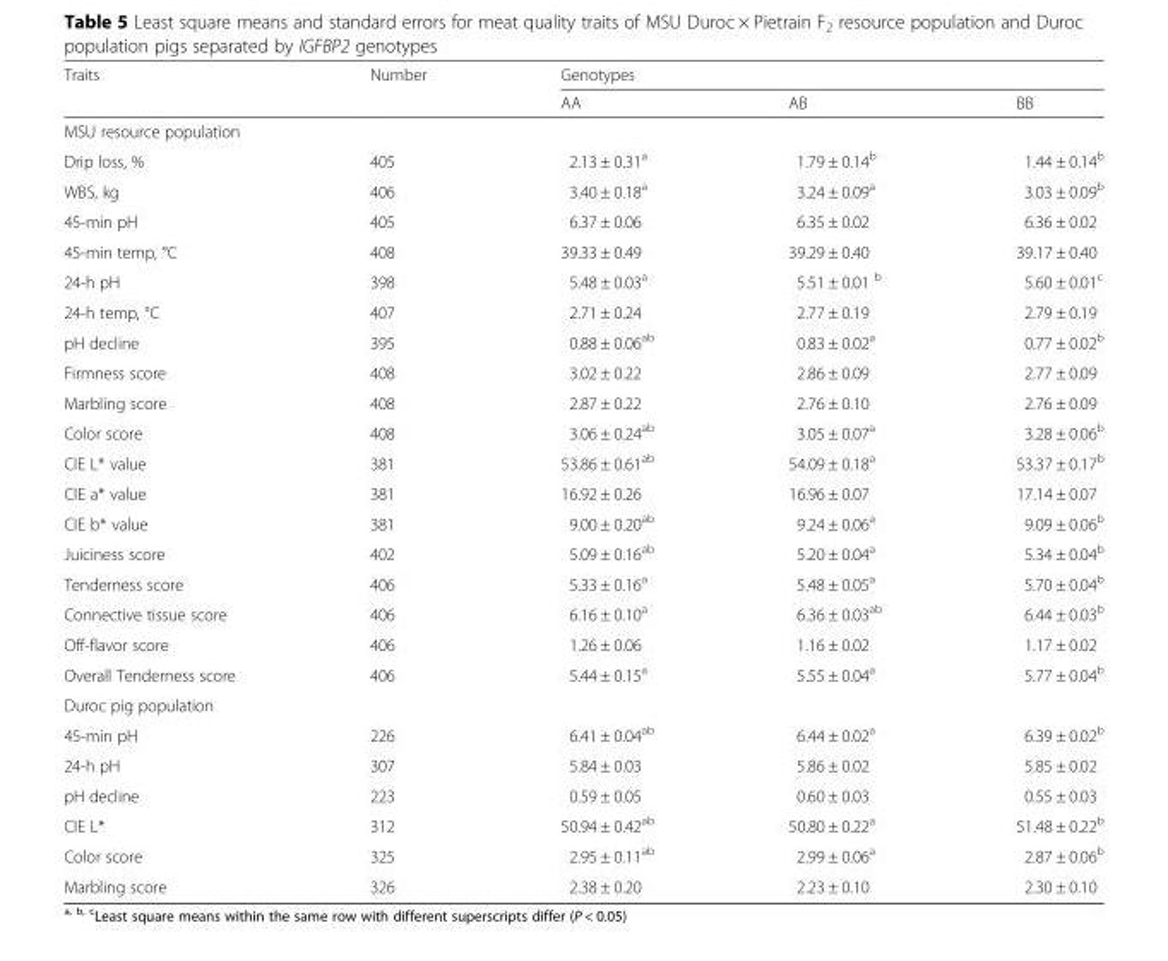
<table><thead><tr><td rowspan="2">Traits</td><td rowspan="2">Number</td><td colspan="3">Genotypes</td></tr><tr><td>AA</td><td>AB</td><td>BB</td></tr></thead><tbody><tr><td colspan="5">MSU resource population</td></tr><tr><td>Drip loss, %</td><td>405</td><td>2.13 ± 0.31<sup>a</sup></td><td>1.79 ± 0.14<sup>b</sup></td><td>1.44 ± 0.14<sup>b</sup></td></tr><tr><td>WBS, kg</td><td>406</td><td>3.40 ± 0.18<sup>a</sup></td><td>3.24 ± 0.09<sup>a</sup></td><td>3.03 ± 0.09<sup>b</sup></td></tr><tr><td>45-min pH</td><td>405</td><td>6.37 ± 0.06</td><td>6.35 ± 0.02</td><td>6.36 ± 0.02</td></tr><tr><td>45-min temp, °C</td><td>408</td><td>39.33 ± 0.49</td><td>39.29 ± 0.40</td><td>39.17 ± 0.40</td></tr><tr><td>24-h pH</td><td>398</td><td>5.48 ± 0.03<sup>a</sup></td><td>5.51 ± 0.01 <sup>b</sup></td><td>5.60 ± 0.01<sup>c</sup></td></tr><tr><td>24-h temp, °C</td><td>407</td><td>2.71 ± 0.24</td><td>2.77 ± 0.19</td><td>2.79 ± 0.19</td></tr><tr><td>pH decline</td><td>395</td><td>0.88 ± 0.06<sup>ab</sup></td><td>0.83 ± 0.02<sup>a</sup></td><td>0.77 ± 0.02<sup>b</sup></td></tr><tr><td>Firmness score</td><td>408</td><td>3.02 ± 0.22</td><td>2.86 ± 0.09</td><td>2.77 ± 0.09</td></tr><tr><td>Marbling score</td><td>408</td><td>2.87 ± 0.22</td><td>2.76 ± 0.10</td><td>2.76 ± 0.09</td></tr><tr><td>Color score</td><td>408</td><td>3.06 ± 0.24<sup>ab</sup></td><td>3.05 ± 0.07<sup>a</sup></td><td>3.28 ± 0.06<sup>b</sup></td></tr><tr><td>CIE L* value</td><td>381</td><td>53.86 ± 0.61<sup>ab</sup></td><td>54.09 ± 0.18<sup>a</sup></td><td>53.37 ± 0.17<sup>b</sup></td></tr><tr><td>CIE a* value</td><td>381</td><td>16.92 ± 0.26</td><td>16.96 ± 0.07</td><td>17.14 ± 0.07</td></tr><tr><td>CIE b* value</td><td>381</td><td>9.00 ± 0.20<sup>ab</sup></td><td>9.24 ± 0.06<sup>a</sup></td><td>9.09 ± 0.06<sup>b</sup></td></tr><tr><td>Juiciness score</td><td>402</td><td>5.09 ± 0.16<sup>ab</sup></td><td>5.20 ± 0.04<sup>a</sup></td><td>5.34 ± 0.04<sup>b</sup></td></tr><tr><td>Tenderness score</td><td>406</td><td>5.33 ± 0.16<sup>a</sup></td><td>5.48 ± 0.05<sup>a</sup></td><td>5.70 ± 0.04<sup>b</sup></td></tr><tr><td>Connective tissue score</td><td>406</td><td>6.16 ± 0.10<sup>a</sup></td><td>6.36 ± 0.03<sup>ab</sup></td><td>6.44 ± 0.03<sup>b</sup></td></tr><tr><td>Off-flavor score</td><td>406</td><td>1.26 ± 0.06</td><td>1.16 ± 0.02</td><td>1.17 ± 0.02</td></tr><tr><td>Overall Tenderness score</td><td>406</td><td>5.44 ± 0.15<sup>a</sup></td><td>5.55 ± 0.04<sup>a</sup></td><td>5.77 ± 0.04<sup>b</sup></td></tr><tr><td colspan="5">Duroc pig population</td></tr><tr><td>45-min pH</td><td>226</td><td>6.41 ± 0.04<sup>ab</sup></td><td>6.44 ± 0.02<sup>a</sup></td><td>6.39 ± 0.02<sup>b</sup></td></tr><tr><td>24-h pH</td><td>307</td><td>5.84 ± 0.03</td><td>5.86 ± 0.02</td><td>5.85 ± 0.02</td></tr><tr><td>pH decline</td><td>223</td><td>0.59 ± 0.05</td><td>0.60 ± 0.03</td><td>0.55 ± 0.03</td></tr><tr><td>CIE L*</td><td>312</td><td>50.94 ± 0.42<sup>ab</sup></td><td>50.80 ± 0.22<sup>a</sup></td><td>51.48 ± 0.22<sup>b</sup></td></tr><tr><td>Color score</td><td>325</td><td>2.95 ± 0.11<sup>ab</sup></td><td>2.99 ± 0.06<sup>a</sup></td><td>2.87 ± 0.06<sup>b</sup></td></tr><tr><td>Marbling score</td><td>326</td><td>2.38 ± 0.20</td><td>2.23 ± 0.10</td><td>2.30 ± 0.10</td></tr></tbody></table>